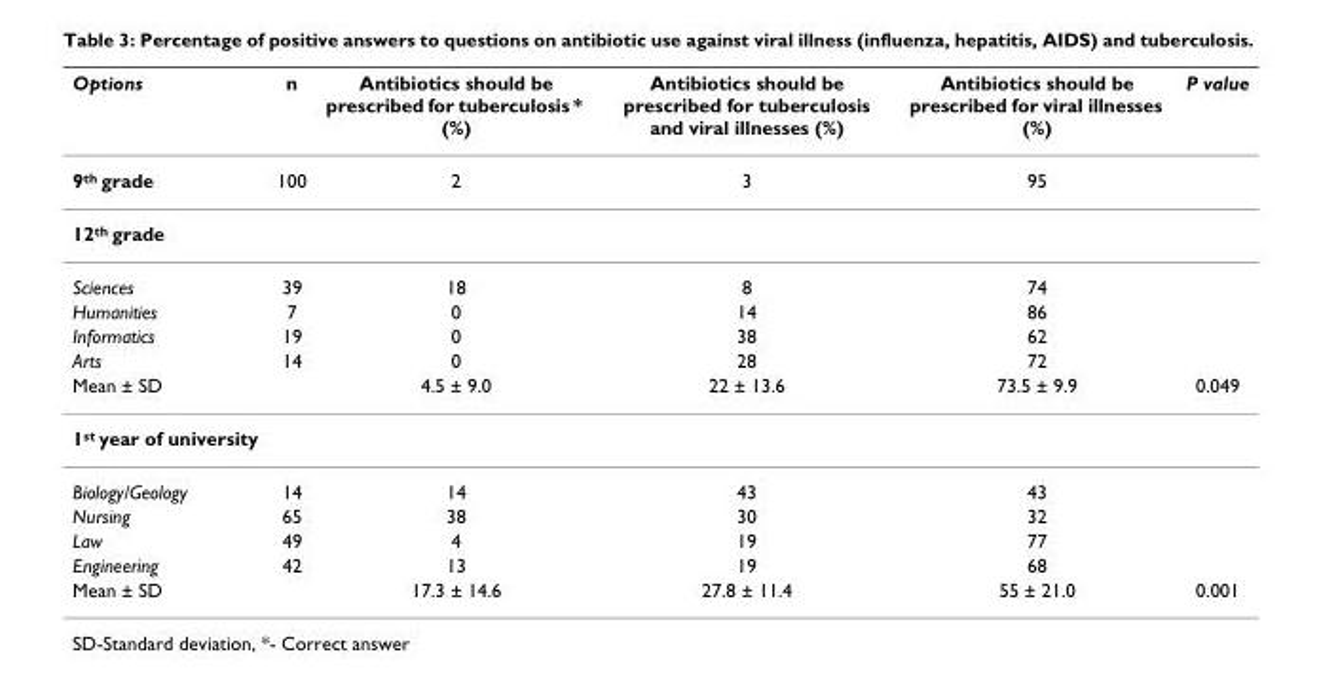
<table><thead><tr><td>Options</td><td>n</td><td>Antibiotics should be prescribed for tuberculosis * (%)</td><td>Antibiotics should be prescribed for tuberculosis and viral illnesses (%)</td><td>Antibiotics should be prescribed for viral illnesses (%)</td><td>P value</td></tr></thead><tbody><tr><td>9<sup>th</sup> grade</td><td>100</td><td>2</td><td>3</td><td>95</td><td></td></tr><tr><td colspan="6">12<sup>th</sup> grade</td></tr><tr><td>Sciences</td><td>39</td><td>18</td><td>8</td><td>74</td><td></td></tr><tr><td>Humanities</td><td>7</td><td>0</td><td>14</td><td>86</td><td></td></tr><tr><td>Informatics</td><td>19</td><td>0</td><td>38</td><td>62</td><td></td></tr><tr><td>Arts</td><td>14</td><td>0</td><td>28</td><td>72</td><td></td></tr><tr><td>Mean ± SD</td><td></td><td>4.5 ± 9.0</td><td>22 ± 13.6</td><td>73.5 ± 9.9</td><td>0.049</td></tr><tr><td colspan="6">1<sup>st</sup> year of university</td></tr><tr><td>Biology/Geology</td><td>14</td><td>14</td><td>43</td><td>43</td><td></td></tr><tr><td>Nursing</td><td>65</td><td>38</td><td>30</td><td>32</td><td></td></tr><tr><td>Law</td><td>49</td><td>4</td><td>19</td><td>77</td><td></td></tr><tr><td>Engineering</td><td>42</td><td>13</td><td>19</td><td>68</td><td></td></tr><tr><td>Mean ± SD</td><td></td><td>17.3 ± 14.6</td><td>27.8 ± 11.4</td><td>55 ± 21.0</td><td>0.001</td></tr></tbody></table>